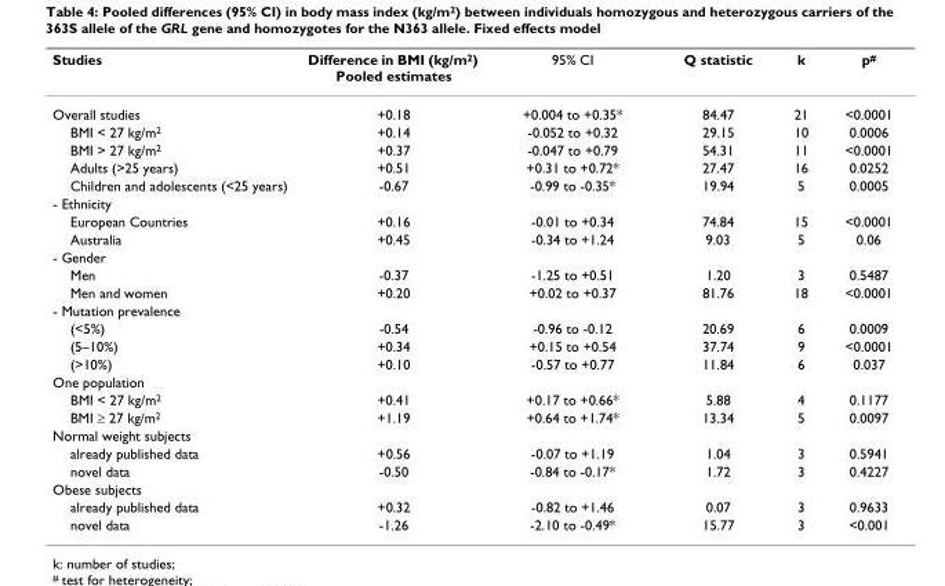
<table><thead><tr><td>Studies</td><td>Difference in BMI (kg/m<sup>2</sup>) Pooled estimates</td><td>95% CI</td><td>Q statistic</td><td>k</td><td>p<sup>#</sup></td></tr></thead><tbody><tr><td>Overall studies</td><td>+0.18</td><td>+0.004 to +0.35*</td><td>84.47</td><td>21</td><td>&lt;0.0001</td></tr><tr><td>BMI &lt; 27 kg/m<sup>2</sup></td><td>+0.14</td><td>-0.052 to +0.32</td><td>29.15</td><td>10</td><td>0.0006</td></tr><tr><td>BMI &gt; 27 kg/m<sup>2</sup></td><td>+0.37</td><td>-0.047 to +0.79</td><td>54.31</td><td>11</td><td>&lt;0.0001</td></tr><tr><td>Adults (&gt;25 years)</td><td>+0.51</td><td>+0.31 to +0.72*</td><td>27.47</td><td>16</td><td>0.0252</td></tr><tr><td>Children and adolescents (&lt;25 years)</td><td>-0.67</td><td>-0.99 to -0.35*</td><td>19.94</td><td>5</td><td>0.0005</td></tr><tr><td colspan="6">- Ethnicity</td></tr><tr><td>European Countries</td><td>+0.16</td><td>-0.01 to +0.34</td><td>74.84</td><td>15</td><td>&lt;0.0001</td></tr><tr><td>Australia</td><td>+0.45</td><td>-0.34 to +1.24</td><td>9.03</td><td>5</td><td>0.06</td></tr><tr><td colspan="6">- Gender</td></tr><tr><td>Men</td><td>-0.37</td><td>-1.25 to +0.51</td><td>1.20</td><td>3</td><td>0.5487</td></tr><tr><td>Men and women</td><td>+0.20</td><td>+0.02 to +0.37</td><td>81.76</td><td>18</td><td>&lt;0.0001</td></tr><tr><td colspan="6">- Mutation prevalence</td></tr><tr><td>(&lt;5%)</td><td>-0.54</td><td>-0.96 to -0.12</td><td>20.69</td><td>6</td><td>0.0009</td></tr><tr><td>(5–10%)</td><td>+0.34</td><td>+0.15 to +0.54</td><td>37.74</td><td>9</td><td>&lt;0.0001</td></tr><tr><td>(&gt;10%)</td><td>+0.10</td><td>-0.57 to +0.77</td><td>11.84</td><td>6</td><td>0.037</td></tr><tr><td colspan="6">One population</td></tr><tr><td>BMI &lt; 27 kg/m<sup>2</sup></td><td>+0.41</td><td>+0.17 to +0.66*</td><td>5.88</td><td>4</td><td>0.1177</td></tr><tr><td>BMI ≥ 27 kg/m<sup>2</sup></td><td>+1.19</td><td>+0.64 to +1.74*</td><td>13.34</td><td>5</td><td>0.0097</td></tr><tr><td colspan="6">Normal weight subjects</td></tr><tr><td>already published data</td><td>+0.56</td><td>-0.07 to +1.19</td><td>1.04</td><td>3</td><td>0.5941</td></tr><tr><td>novel data</td><td>-0.50</td><td>-0.84 to -0.17*</td><td>1.72</td><td>3</td><td>0.4227</td></tr><tr><td colspan="6">Obese subjects</td></tr><tr><td>already published data</td><td>+0.32</td><td>-0.82 to +1.46</td><td>0.07</td><td>3</td><td>0.9633</td></tr><tr><td>novel data</td><td>-1.26</td><td>-2.10 to -0.49*</td><td>15.77</td><td>3</td><td>&lt;0.001</td></tr></tbody></table>